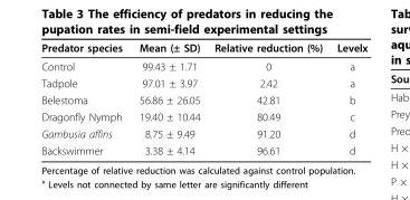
<table><thead><tr><td>Predator species</td><td>Mean (± SD)</td><td>Relative reduction (%)</td><td>Levelx</td></tr></thead><tbody><tr><td>Control</td><td>99.43 ± 1.71</td><td>0</td><td>a</td></tr><tr><td>Tadpole</td><td>97.01 ± 3.97</td><td>2.42</td><td>a</td></tr><tr><td>Belestoma</td><td>56.86 ± 26.05</td><td>42.81</td><td>b</td></tr><tr><td>Dragonfly Nymph</td><td>19.40 ± 10.44</td><td>80.49</td><td>c</td></tr><tr><td>Gambusia affins</td><td>8.75 ± 9.49</td><td>91.20</td><td>d</td></tr><tr><td>Backswimmer</td><td>3.38 ± 4.14</td><td>96.61</td><td>d</td></tr></tbody></table>